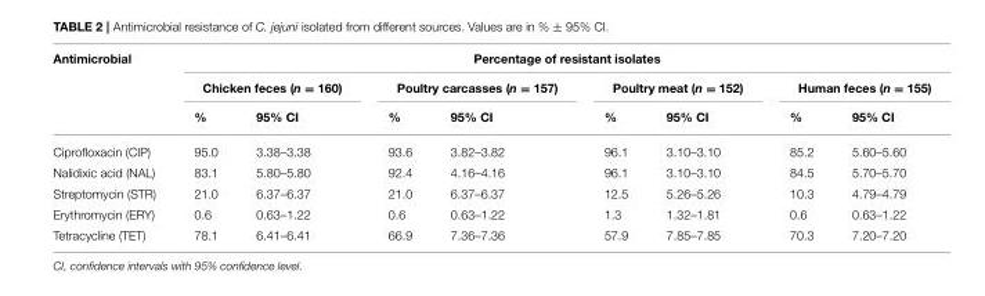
<table><thead><tr><td rowspan="3">Antimicrobial</td><td colspan="8">Percentage of resistant isolates</td></tr><tr><td colspan="2">Chicken feces (n = 160)</td><td colspan="2">Poultry carcasses (n = 157)</td><td colspan="2">Poultry meat (n = 152)</td><td colspan="2">Human feces (n = 155)</td></tr><tr><td>%</td><td>95% CI</td><td>%</td><td>95% CI</td><td>%</td><td>95% CI</td><td>%</td><td>95% CI</td></tr></thead><tbody><tr><td>Ciprofloxacin (CIP)</td><td>95.0</td><td>3.38–3.38</td><td>93.6</td><td>3.82–3.82</td><td>96.1</td><td>3.10–3.10</td><td>85.2</td><td>5.60–5.60</td></tr><tr><td>Nalidixic acid (NAL)</td><td>83.1</td><td>5.80–5.80</td><td>92.4</td><td>4.16–4.16</td><td>96.1</td><td>3.10–3.10</td><td>84.5</td><td>5.70–5.70</td></tr><tr><td>Streptomycin (STR)</td><td>21.0</td><td>6.37–6.37</td><td>21.0</td><td>6.37–6.37</td><td>12.5</td><td>5.26–5.26</td><td>10.3</td><td>4.79–4.79</td></tr><tr><td>Erythromycin (ERY)</td><td>0.6</td><td>0.63–1.22</td><td>0.6</td><td>0.63–1.22</td><td>1.3</td><td>1.32–1.81</td><td>0.6</td><td>0.63–1.22</td></tr><tr><td>Tetracycline (TET)</td><td>78.1</td><td>6.41–6.41</td><td>66.9</td><td>7.36–7.36</td><td>57.9</td><td>7.85–7.85</td><td>70.3</td><td>7.20–7.20</td></tr></tbody></table>